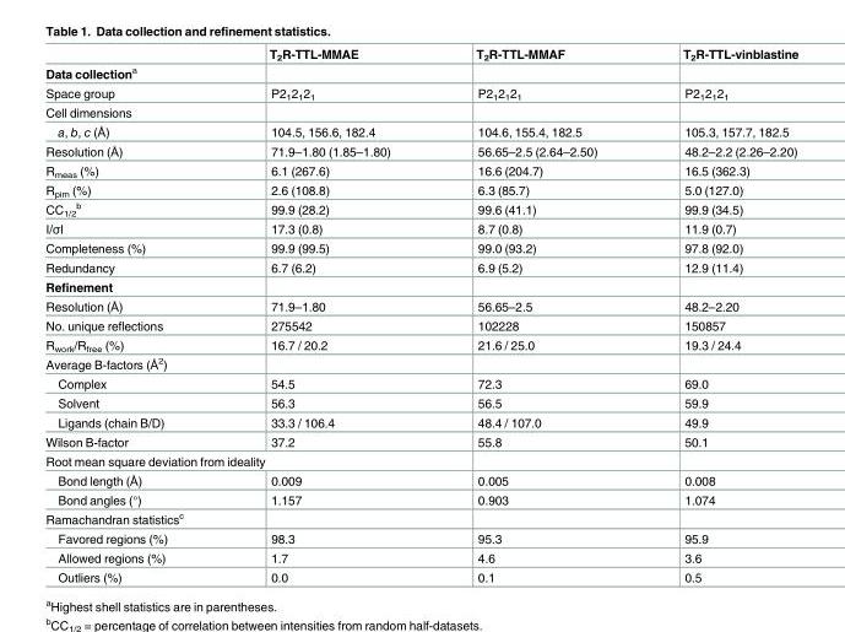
<table><thead><tr><td></td><td>T<sub>2</sub>R-TTL-MMAE</td><td>T<sub>2</sub>R-TTL-MMAF</td><td>T<sub>2</sub>R-TTL-vinblastine</td></tr></thead><tbody><tr><td colspan="4">Data collection<sup>a</sup></td></tr><tr><td>Space group</td><td>P2<sub>1</sub>2<sub>1</sub>2<sub>1</sub></td><td>P2<sub>1</sub>2<sub>1</sub>2<sub>1</sub></td><td>P2<sub>1</sub>2<sub>1</sub>2<sub>1</sub></td></tr><tr><td colspan="4">Cell dimensions</td></tr><tr><td>a, b, c (Å)</td><td>104.5, 156.6, 182.4</td><td>104.6, 155.4, 182.5</td><td>105.3, 157.7, 182.5</td></tr><tr><td>Resolution (Å)</td><td>71.9–1.80 (1.85–1.80)</td><td>56.65–2.5 (2.64–2.50)</td><td>48.2–2.2 (2.26–2.20)</td></tr><tr><td>R<sub>meas</sub> (%)</td><td>6.1 (267.6)</td><td>16.6 (204.7)</td><td>16.5 (362.3)</td></tr><tr><td>R<sub>pim</sub> (%)</td><td>2.6 (108.8)</td><td>6.3 (85.7)</td><td>5.0 (127.0)</td></tr><tr><td>CC<sub>1/2</sub> <sup>b</sup></td><td>99.9 (28.2)</td><td>99.6 (41.1)</td><td>99.9 (34.5)</td></tr><tr><td>I/σI</td><td>17.3 (0.8)</td><td>8.7 (0.8)</td><td>11.9 (0.7)</td></tr><tr><td>Completeness (%)</td><td>99.9 (99.5)</td><td>99.0 (93.2)</td><td>97.8 (92.0)</td></tr><tr><td>Redundancy</td><td>6.7 (6.2)</td><td>6.9 (5.2)</td><td>12.9 (11.4)</td></tr><tr><td colspan="4">Refinement</td></tr><tr><td>Resolution (Å)</td><td>71.9–1.80</td><td>56.65–2.5</td><td>48.2–2.20</td></tr><tr><td>No. unique reflections</td><td>275542</td><td>102228</td><td>150857</td></tr><tr><td>R<sub>work</sub>/R<sub>free</sub> (%)</td><td>16.7 / 20.2</td><td>21.6 / 25.0</td><td>19.3 / 24.4</td></tr><tr><td colspan="4">Average B-factors (Å<sup>2</sup>)</td></tr><tr><td>Complex</td><td>54.5</td><td>72.3</td><td>69.0</td></tr><tr><td>Solvent</td><td>56.3</td><td>56.5</td><td>59.9</td></tr><tr><td>Ligands (chain B/D)</td><td>33.3 / 106.4</td><td>48.4 / 107.0</td><td>49.9</td></tr><tr><td>Wilson B-factor</td><td>37.2</td><td>55.8</td><td>50.1</td></tr><tr><td colspan="4">Root mean square deviation from ideality</td></tr><tr><td>Bond length (Å)</td><td>0.009</td><td>0.005</td><td>0.008</td></tr><tr><td>Bond angles (°)</td><td>1.157</td><td>0.903</td><td>1.074</td></tr><tr><td colspan="4">Ramachandran statistics<sup>c</sup></td></tr><tr><td>Favored regions (%)</td><td>98.3</td><td>95.3</td><td>95.9</td></tr><tr><td>Allowed regions (%)</td><td>1.7</td><td>4.6</td><td>3.6</td></tr><tr><td>Outliers (%)</td><td>0.0</td><td>0.1</td><td>0.5</td></tr></tbody></table>